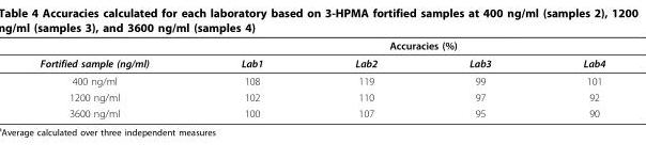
<table><thead><tr><td rowspan="2">Fortified sample (ng/ml)</td><td colspan="4">Accuracies (%)</td></tr><tr><td>Lab1</td><td>Lab2</td><td>Lab3</td><td>Lab4</td></tr></thead><tbody><tr><td>400 ng/ml</td><td>108</td><td>119</td><td>99</td><td>101</td></tr><tr><td>1200 ng/ml</td><td>102</td><td>110</td><td>97</td><td>92</td></tr><tr><td>3600 ng/ml</td><td>100</td><td>107</td><td>95</td><td>90</td></tr></tbody></table>